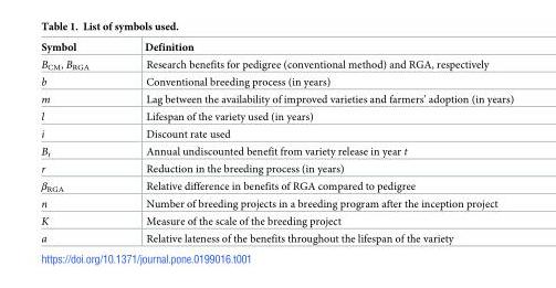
<table><thead><tr><td>Symbol</td><td>Definition</td></tr></thead><tbody><tr><td>B<sub>CM</sub>, B<sub>RGA</sub></td><td>Research benefits for pedigree (conventional method) and RGA, respectively</td></tr><tr><td>b</td><td>Conventional breeding process (in years)</td></tr><tr><td>m</td><td>Lag between the availability of improved varieties and farmers’ adoption (in years)</td></tr><tr><td>l</td><td>Lifespan of the variety used (in years)</td></tr><tr><td>i</td><td>Discount rate used</td></tr><tr><td>B<sub>t</sub></td><td>Annual undiscounted benefit from variety release in year t</td></tr><tr><td>r</td><td>Reduction in the breeding process (in years)</td></tr><tr><td>β<sub>RGA</sub></td><td>Relative difference in benefits of RGA compared to pedigree</td></tr><tr><td>n</td><td>Number of breeding projects in a breeding program after the inception project</td></tr><tr><td>K</td><td>Measure of the scale of the breeding project</td></tr><tr><td>a</td><td>Relative lateness of the benefits throughout the lifespan of the variety</td></tr></tbody></table>